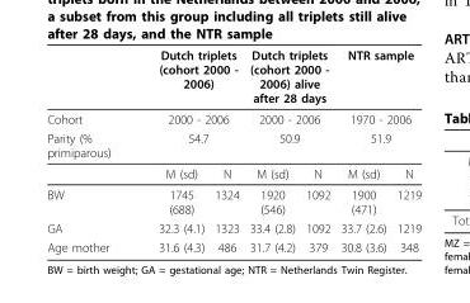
<table><thead><tr><td rowspan="4">Cohort Parity (% primiparous)</td><td rowspan="3" colspan="2">Dutch triplets (cohort 2000 - 2006) 2000 - 2006 54.7</td><td rowspan="3" colspan="2">Dutch triplets (cohort 2000 - 2006) alive after 28 days 2000 - 2006 50.9</td><td rowspan="3" colspan="2">NTR sample 1970 - 2006 51.9</td></tr><tr></tr><tr></tr><tr><td>M (sd)</td><td>N</td><td>M (sd)</td><td>N</td><td>M (sd)</td><td>N</td></tr></thead><tbody><tr><td>BW</td><td>1745 (688)</td><td>1324</td><td>1920 (546)</td><td>1092</td><td>1900 (471)</td><td>1219</td></tr><tr><td>GA</td><td>32.3 (4.1)</td><td>1323</td><td>33.4 (2.8)</td><td>1092</td><td>33.7 (2.6)</td><td>1219</td></tr><tr><td>Age mother</td><td>31.6 (4.3)</td><td>486</td><td>31.7 (4.2)</td><td>379</td><td>30.8 (3.6)</td><td>348</td></tr></tbody></table>